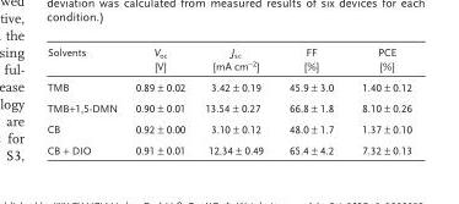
<table><thead><tr><td>Solvents</td><td>V <sub>oc</sub> [V]</td><td>J <sub>sc</sub> [mA cm <sup>−2</sup> ]</td><td>FF [%]</td><td>PCE [%]</td></tr></thead><tbody><tr><td>TMB</td><td>0.89 ± 0.02</td><td>3.42 ± 0.19</td><td>45.9 ± 3.0</td><td>1.40 ± 0.12</td></tr><tr><td>TMB+1,5-DMN</td><td>0.90 ± 0.01</td><td>13.54 ± 0.27</td><td>66.8 ± 1.8</td><td>8.10 ± 0.26</td></tr><tr><td>CB</td><td>0.92 ± 0.00</td><td>3.10 ± 0.12</td><td>48.0 ± 1.7</td><td>1.37 ± 0.10</td></tr><tr><td>CB + DIO</td><td>0.91 ± 0.01</td><td>12.34 ± 0.49</td><td>65.4 ± 4.2</td><td>7.32 ± 0.13</td></tr></tbody></table>